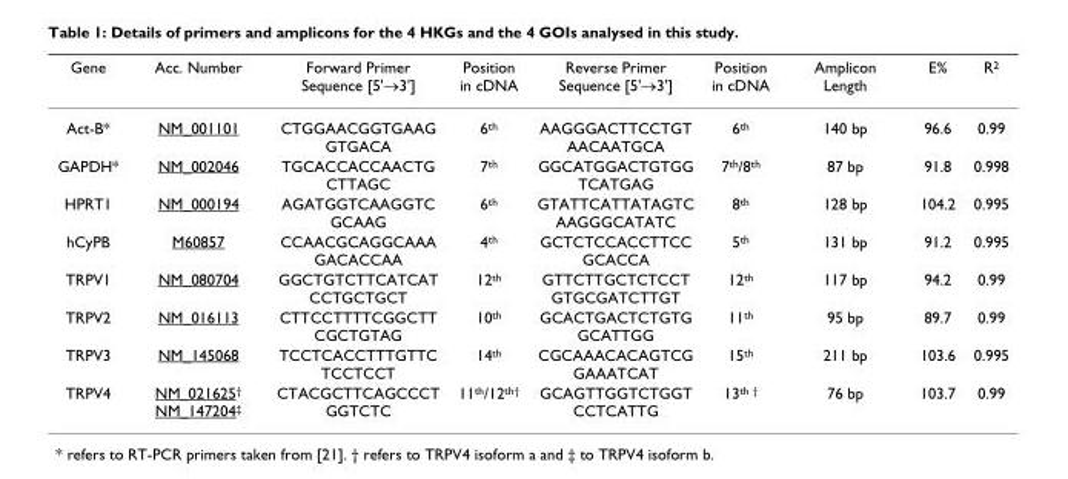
<table><thead><tr><td>Gene</td><td>Acc. Number</td><td>Forward Primer Sequence [5&#x27;→3&#x27;]</td><td>Position in cDNA</td><td>Reverse Primer Sequence [5&#x27;→3&#x27;]</td><td>Position in cDNA</td><td>Amplicon Length</td><td>E%</td><td>R<sup>2</sup></td></tr></thead><tbody><tr><td>Act-B*</td><td>NM_001101</td><td>CTGGAACGGTGAAG GTGACA</td><td>6<sup>th</sup></td><td>AAGGGACTTCCTGT AACAATGCA</td><td>6<sup>th</sup></td><td>140 bp</td><td>96.6</td><td>0.99</td></tr><tr><td>GAPDH*</td><td>NM_002046</td><td>TGCACCACCAACTG CTTAGC</td><td>7<sup>th</sup></td><td>GGCATGGACTGTGG TCATGAG</td><td>7<sup>th</sup>/8<sup>th</sup></td><td>87 bp</td><td>91.8</td><td>0.998</td></tr><tr><td>HPRT1</td><td>NM_000194</td><td>AGATGGTCAAGGTC GCAAG</td><td>6<sup>th</sup></td><td>GTATTCATTATAGTC AAGGGCATATC</td><td>8<sup>th</sup></td><td>128 bp</td><td>104.2</td><td>0.995</td></tr><tr><td>hCyPB</td><td>M60857</td><td>CCAACGCAGGCAAA GACACCAA</td><td>4<sup>th</sup></td><td>GCTCTCCACCTTCC GCACCA</td><td>5<sup>th</sup></td><td>131 bp</td><td>91.2</td><td>0.995</td></tr><tr><td>TRPV1</td><td>NM_080704</td><td>GGCTGTCTTCATCAT CCTGCTGCT</td><td>12<sup>th</sup></td><td>GTTCTTGCTCTCCT GTGCGATCTTGT</td><td>12<sup>th</sup></td><td>117 bp</td><td>94.2</td><td>0.99</td></tr><tr><td>TRPV2</td><td>NM_016113</td><td>CTTCCTTTTCGGCTT CGCTGTAG</td><td>10<sup>th</sup></td><td>GCACTGACTCTGTG GCATTGG</td><td>11<sup>th</sup></td><td>95 bp</td><td>89.7</td><td>0.99</td></tr><tr><td>TRPV3</td><td>NM_145068</td><td>TCCTCACCTTTGTTC TCCTCCT</td><td>14<sup>th</sup></td><td>CGCAAACACAGTCG GAAATCAT</td><td>15<sup>th</sup></td><td>211 bp</td><td>103.6</td><td>0.995</td></tr><tr><td>TRPV4</td><td>NM_021625<sup>†</sup> NM_147204<sup>‡</sup></td><td>CTACGCTTCAGCCCT GGTCTC</td><td>11<sup>th</sup>/12<sup>th†</sup></td><td>GCAGTTGGTCTGGT CCTCATTG</td><td>13<sup>th †</sup></td><td>76 bp</td><td>103.7</td><td>0.99</td></tr></tbody></table>